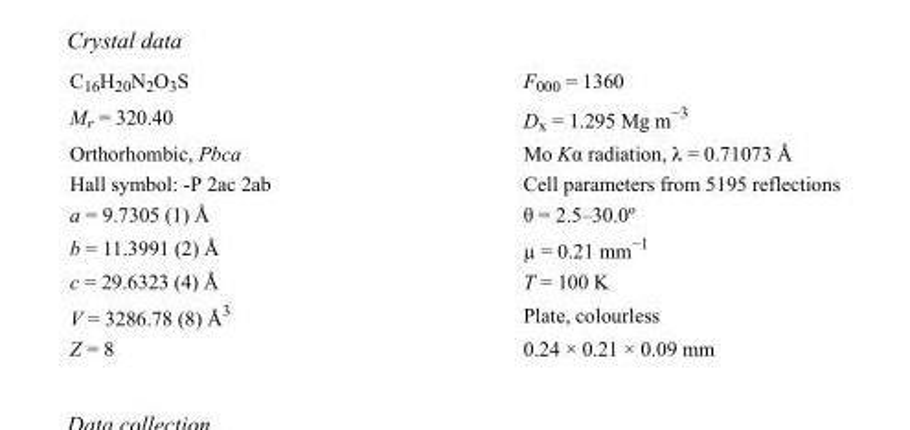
<table><tbody><tr><td>C<sub>16</sub>H<sub>20</sub>N<sub>2</sub>O<sub>3</sub>S</td><td>F000 = 1360</td></tr><tr><td>M<sub>r</sub> = 320.40</td><td>D<sub>x</sub> = 1.295 Mg m<sup>−3</sup></td></tr><tr><td>Orthorhombic, Pbca</td><td>Mo Kα radiation, λ = 0.71073 Å</td></tr><tr><td>Hall symbol: -P 2ac 2ab</td><td>Cell parameters from 5195 reflections</td></tr><tr><td>a = 9.7305 (1) Å</td><td>θ = 2.5–30.0º</td></tr><tr><td>b = 11.3991 (2) Å</td><td>µ = 0.21 mm<sup>−1</sup></td></tr><tr><td>c = 29.6323 (4) Å</td><td>T = 100 K</td></tr><tr><td>V = 3286.78 (8) Å<sup>3</sup></td><td>Plate, colourless</td></tr><tr><td>Z = 8</td><td>0.24 × 0.21 × 0.09 mm</td></tr></tbody></table>